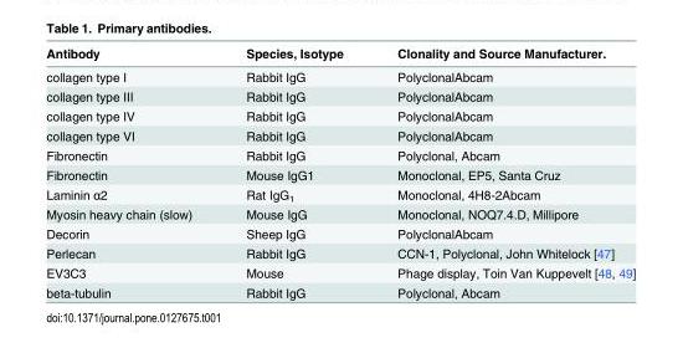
<table><thead><tr><td>Antibody</td><td>Species, Isotype</td><td>Clonality and Source Manufacturer.</td></tr></thead><tbody><tr><td>collagen type I</td><td>Rabbit IgG</td><td>PolyclonalAbcam</td></tr><tr><td>collagen type III</td><td>Rabbit IgG</td><td>PolyclonalAbcam</td></tr><tr><td>collagen type IV</td><td>Rabbit IgG</td><td>PolyclonalAbcam</td></tr><tr><td>collagen type VI</td><td>Rabbit IgG</td><td>PolyclonalAbcam</td></tr><tr><td>Fibronectin</td><td>Rabbit IgG</td><td>Polyclonal, Abcam</td></tr><tr><td>Fibronectin</td><td>Mouse IgG1</td><td>Monoclonal, EP5, Santa Cruz</td></tr><tr><td>Laminin α2</td><td>Rat IgG<sub>1</sub></td><td>Monoclonal, 4H8-2Abcam</td></tr><tr><td>Myosin heavy chain (slow)</td><td>Mouse IgG</td><td>Monoclonal, NOQ7.4.D, Millipore</td></tr><tr><td>Decorin</td><td>Sheep IgG</td><td>PolyclonalAbcam</td></tr><tr><td>Perlecan</td><td>Rabbit IgG</td><td>CCN-1, Polyclonal, John Whitelock [47]</td></tr><tr><td>EV3C3</td><td>Mouse</td><td>Phage display, Toin Van Kuppevelt [48, 49]</td></tr><tr><td>beta-tubulin</td><td>Rabbit IgG</td><td>Polyclonal, Abcam</td></tr></tbody></table>